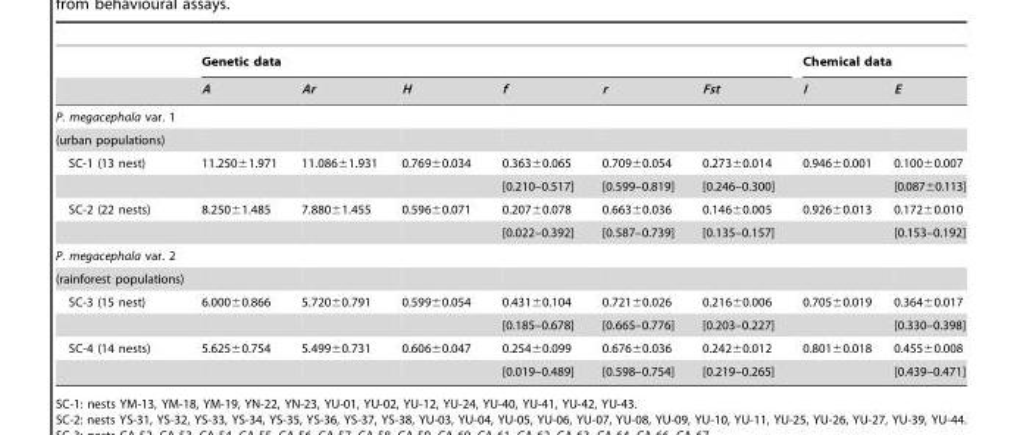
<table><thead><tr><td rowspan="2"></td><td colspan="6">Genetic data</td><td colspan="2">Chemical data</td></tr><tr><td>A</td><td>Ar</td><td>H</td><td>f</td><td>r</td><td>Fst</td><td>I</td><td>E</td></tr></thead><tbody><tr><td colspan="9">P. megacephala var. 1</td></tr><tr><td colspan="9">(urban populations)</td></tr><tr><td rowspan="2">SC-1 (13 nest)</td><td>11.250±1.971</td><td>11.086±1.931</td><td>0.769±0.034</td><td>0.363±0.065</td><td>0.709±0.054</td><td>0.273±0.014</td><td>0.946±0.001</td><td>0.100±0.007</td></tr><tr><td></td><td></td><td></td><td>[0.210–0.517]</td><td>[0.599–0.819]</td><td>[0.246–0.300]</td><td></td><td>[0.087±0.113]</td></tr><tr><td rowspan="2">SC-2 (22 nests)</td><td>8.250±1.485</td><td>7.880±1.455</td><td>0.596±0.071</td><td>0.207±0.078</td><td>0.663±0.036</td><td>0.146±0.005</td><td>0.926±0.013</td><td>0.172±0.010</td></tr><tr><td></td><td></td><td></td><td>[0.022–0.392]</td><td>[0.587–0.739]</td><td>[0.135–0.157]</td><td></td><td>[0.153–0.192]</td></tr><tr><td colspan="9">P. megacephala var. 2</td></tr><tr><td colspan="9">(rainforest populations)</td></tr><tr><td rowspan="2">SC-3 (15 nest)</td><td>6.000±0.866</td><td>5.720±0.791</td><td>0.599±0.054</td><td>0.431±0.104</td><td>0.721±0.026</td><td>0.216±0.006</td><td>0.705±0.019</td><td>0.364±0.017</td></tr><tr><td></td><td></td><td></td><td>[0.185–0.678]</td><td>[0.665–0.776]</td><td>[0.203–0.227]</td><td></td><td>[0.330–0.398]</td></tr><tr><td rowspan="2">SC-4 (14 nests)</td><td>5.625±0.754</td><td>5.499±0.731</td><td>0.606±0.047</td><td>0.254±0.099</td><td>0.676±0.036</td><td>0.242±0.012</td><td>0.801±0.018</td><td>0.455±0.008</td></tr><tr><td></td><td></td><td></td><td>[0.019–0.489]</td><td>[0.598–0.754]</td><td>[0.219–0.265]</td><td></td><td>[0.439–0.471]</td></tr></tbody></table>